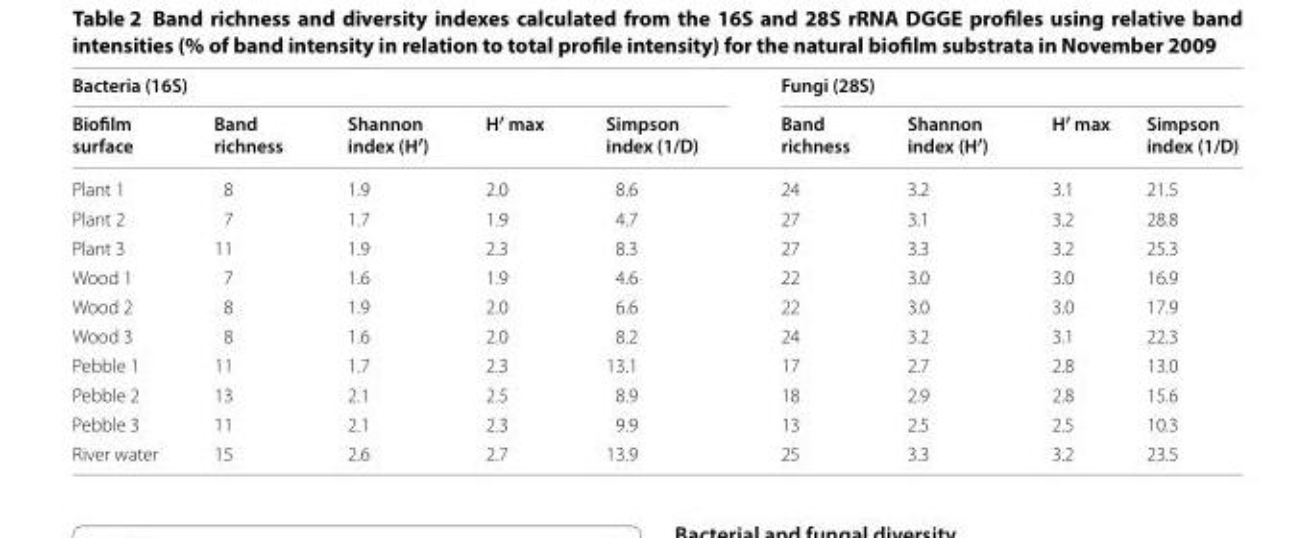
<table><thead><tr><td colspan="5">Bacteria (16S)</td><td colspan="4">Fungi (28S)</td></tr><tr><td>Biofilm surface</td><td>Band richness</td><td>Shannon index (H′)</td><td>H′ max</td><td>Simpson index (1/D)</td><td>Band richness</td><td>Shannon index (H′)</td><td>H′ max</td><td>Simpson index (1/D)</td></tr></thead><tbody><tr><td>Plant 1</td><td>8</td><td>1.9</td><td>2.0</td><td>8.6</td><td>24</td><td>3.2</td><td>3.1</td><td>21.5</td></tr><tr><td>Plant 2</td><td>7</td><td>1.7</td><td>1.9</td><td>4.7</td><td>27</td><td>3.1</td><td>3.2</td><td>28.8</td></tr><tr><td>Plant 3</td><td>11</td><td>1.9</td><td>2.3</td><td>8.3</td><td>27</td><td>3.3</td><td>3.2</td><td>25.3</td></tr><tr><td>Wood 1</td><td>7</td><td>1.6</td><td>1.9</td><td>4.6</td><td>22</td><td>3.0</td><td>3.0</td><td>16.9</td></tr><tr><td>Wood 2</td><td>8</td><td>1.9</td><td>2.0</td><td>6.6</td><td>22</td><td>3.0</td><td>3.0</td><td>17.9</td></tr><tr><td>Wood 3</td><td>8</td><td>1.6</td><td>2.0</td><td>8.2</td><td>24</td><td>3.2</td><td>3.1</td><td>22.3</td></tr><tr><td>Pebble 1</td><td>11</td><td>1.7</td><td>2.3</td><td>13.1</td><td>17</td><td>2.7</td><td>2.8</td><td>13.0</td></tr><tr><td>Pebble 2</td><td>13</td><td>2.1</td><td>2.5</td><td>8.9</td><td>18</td><td>2.9</td><td>2.8</td><td>15.6</td></tr><tr><td>Pebble 3</td><td>11</td><td>2.1</td><td>2.3</td><td>9.9</td><td>13</td><td>2.5</td><td>2.5</td><td>10.3</td></tr><tr><td>River water</td><td>15</td><td>2.6</td><td>2.7</td><td>13.9</td><td>25</td><td>3.3</td><td>3.2</td><td>23.5</td></tr></tbody></table>